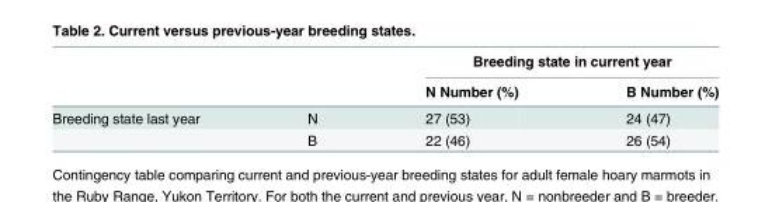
<table><thead><tr><td rowspan="2"></td><td rowspan="2"></td><td colspan="2">Breeding state in current year</td></tr><tr><td>N Number (%)</td><td>B Number (%)</td></tr></thead><tbody><tr><td rowspan="2">Breeding state last year</td><td>N</td><td>27 (53)</td><td>24 (47)</td></tr><tr><td>B</td><td>22 (46)</td><td>26 (54)</td></tr></tbody></table>